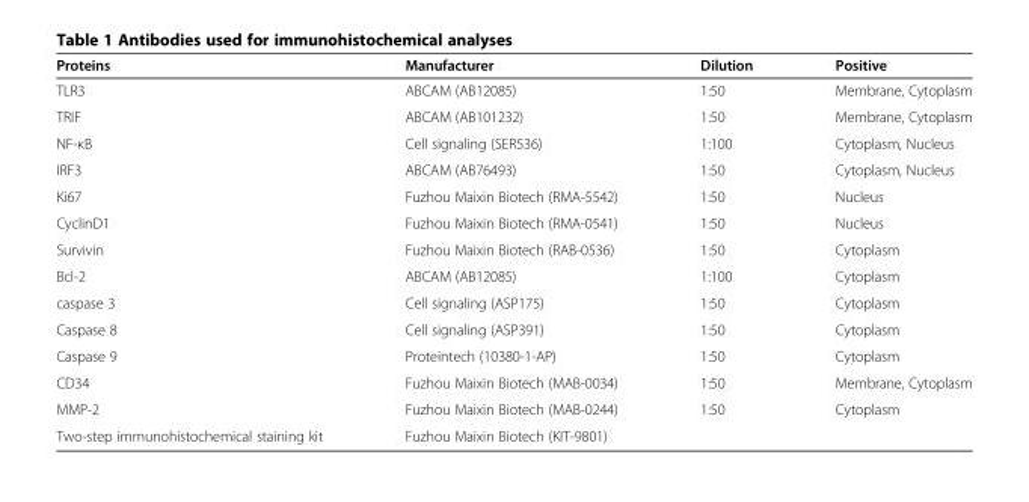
<table><thead><tr><td>Proteins</td><td>Manufacturer</td><td>Dilution</td><td>Positive</td></tr></thead><tbody><tr><td>TLR3</td><td>ABCAM (AB12085)</td><td>1:50</td><td>Membrane, Cytoplasm</td></tr><tr><td>TRIF</td><td>ABCAM (AB101232)</td><td>1:50</td><td>Membrane, Cytoplasm</td></tr><tr><td>NF-κB</td><td>Cell signaling (SER536)</td><td>1:100</td><td>Cytoplasm, Nucleus</td></tr><tr><td>IRF3</td><td>ABCAM (AB76493)</td><td>1:50</td><td>Cytoplasm, Nucleus</td></tr><tr><td>Ki67</td><td>Fuzhou Maixin Biotech (RMA-5542)</td><td>1:50</td><td>Nucleus</td></tr><tr><td>CyclinD1</td><td>Fuzhou Maixin Biotech (RMA-0541)</td><td>1:50</td><td>Nucleus</td></tr><tr><td>Survivin</td><td>Fuzhou Maixin Biotech (RAB-0536)</td><td>1:50</td><td>Cytoplasm</td></tr><tr><td>Bcl-2</td><td>ABCAM (AB12085)</td><td>1:100</td><td>Cytoplasm</td></tr><tr><td>caspase 3</td><td>Cell signaling (ASP175)</td><td>1:50</td><td>Cytoplasm</td></tr><tr><td>Caspase 8</td><td>Cell signaling (ASP391)</td><td>1:50</td><td>Cytoplasm</td></tr><tr><td>Caspase 9</td><td>Proteintech (10380-1-AP)</td><td>1:50</td><td>Cytoplasm</td></tr><tr><td>CD34</td><td>Fuzhou Maixin Biotech (MAB-0034)</td><td>1:50</td><td>Membrane, Cytoplasm</td></tr><tr><td>MMP-2</td><td>Fuzhou Maixin Biotech (MAB-0244)</td><td>1:50</td><td>Cytoplasm</td></tr><tr><td>Two-step immunohistochemical staining kit</td><td>Fuzhou Maixin Biotech (KIT-9801)</td><td colspan="2"></td></tr></tbody></table>